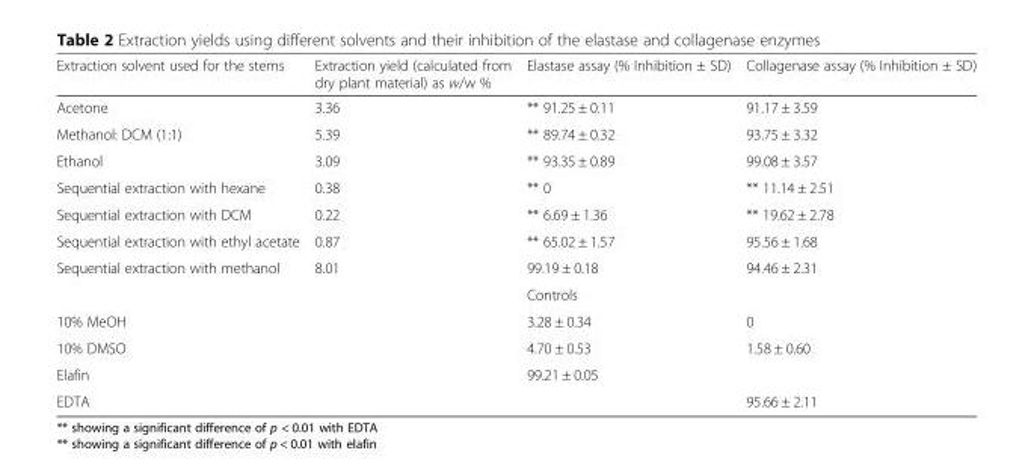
<table><thead><tr><td>Extraction solvent used for the stems</td><td>Extraction yield (calculated from dry plant material) as w/w %</td><td>Elastase assay (% Inhibition ± SD)</td><td>Collagenase assay (% Inhibition ± SD)</td></tr></thead><tbody><tr><td>Acetone</td><td>3.36</td><td>** 91.25 ± 0.11</td><td>91.17 ± 3.59</td></tr><tr><td>Methanol: DCM (1:1)</td><td>5.39</td><td>** 89.74 ± 0.32</td><td>93.75 ± 3.32</td></tr><tr><td>Ethanol</td><td>3.09</td><td>** 93.35 ± 0.89</td><td>99.08 ± 3.57</td></tr><tr><td>Sequential extraction with hexane</td><td>0.38</td><td>** 0</td><td>** 11.14 ± 2.51</td></tr><tr><td>Sequential extraction with DCM</td><td>0.22</td><td>** 6.69 ± 1.36</td><td>** 19.62 ± 2.78</td></tr><tr><td>Sequential extraction with ethyl acetate</td><td>0.87</td><td>** 65.02 ± 1.57</td><td>95.56 ± 1.68</td></tr><tr><td rowspan="2">Sequential extraction with methanol</td><td>8.01</td><td>99.19 ± 0.18</td><td>94.46 ± 2.31</td></tr><tr><td></td><td>Controls</td><td></td></tr><tr><td>10% MeOH</td><td></td><td>3.28 ± 0.34</td><td>0</td></tr><tr><td>10% DMSO</td><td></td><td>4.70 ± 0.53</td><td>1.58 ± 0.60</td></tr><tr><td>Elafin</td><td></td><td>99.21 ± 0.05</td><td></td></tr><tr><td>EDTA</td><td></td><td></td><td>95.66 ± 2.11</td></tr></tbody></table>